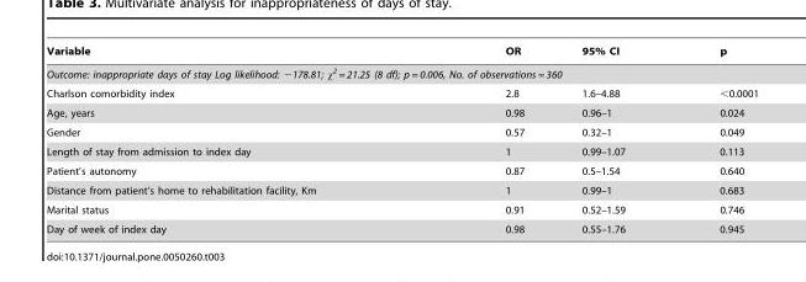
<table><thead><tr><td>Variable</td><td>OR</td><td>95% CI</td><td>p</td></tr></thead><tbody><tr><td colspan="4">Outcome: inappropriate days of stay Log likelihood: −178.81; χ<sup>2</sup> = 21.25 (8 df); p = 0.006, No. of observations = 360</td></tr><tr><td>Charlson comorbidity index</td><td>2.8</td><td>1.6–4.88</td><td>&lt;0.0001</td></tr><tr><td>Age, years</td><td>0.98</td><td>0.96–1</td><td>0.024</td></tr><tr><td>Gender</td><td>0.57</td><td>0.32–1</td><td>0.049</td></tr><tr><td>Length of stay from admission to index day</td><td>1</td><td>0.99–1.07</td><td>0.113</td></tr><tr><td>Patient’s autonomy</td><td>0.87</td><td>0.5–1.54</td><td>0.640</td></tr><tr><td>Distance from patient’s home to rehabilitation facility, Km</td><td>1</td><td>0.99–1</td><td>0.683</td></tr><tr><td>Marital status</td><td>0.91</td><td>0.52–1.59</td><td>0.746</td></tr><tr><td>Day of week of index day</td><td>0.98</td><td>0.55–1.76</td><td>0.945</td></tr></tbody></table>